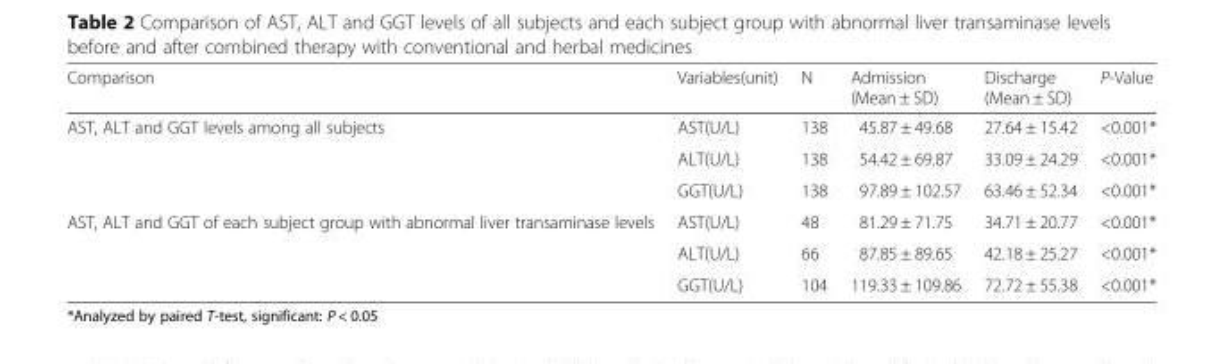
<table><thead><tr><td>Comparison</td><td>Variables(unit)</td><td>N</td><td>Admission (Mean ± SD)</td><td>Discharge (Mean ± SD)</td><td>P-Value</td></tr></thead><tbody><tr><td rowspan="3">AST, ALT and GGT levels among all subjects</td><td>AST(U/L)</td><td>138</td><td>45.87 ± 49.68</td><td>27.64 ± 15.42</td><td>&lt;0.001*</td></tr><tr><td>ALT(U/L)</td><td>138</td><td>54.42 ± 69.87</td><td>33.09 ± 24.29</td><td>&lt;0.001*</td></tr><tr><td>GGT(U/L)</td><td>138</td><td>97.89 ± 102.57</td><td>63.46 ± 52.34</td><td>&lt;0.001*</td></tr><tr><td rowspan="3">AST, ALT and GGT of each subject group with abnormal liver transaminase levels</td><td>AST(U/L)</td><td>48</td><td>81.29 ± 71.75</td><td>34.71 ± 20.77</td><td>&lt;0.001*</td></tr><tr><td>ALT(U/L)</td><td>66</td><td>87.85 ± 89.65</td><td>42.18 ± 25.27</td><td>&lt;0.001*</td></tr><tr><td>GGT(U/L)</td><td>104</td><td>119.33 ± 109.86</td><td>72.72 ± 55.38</td><td>&lt;0.001*</td></tr></tbody></table>